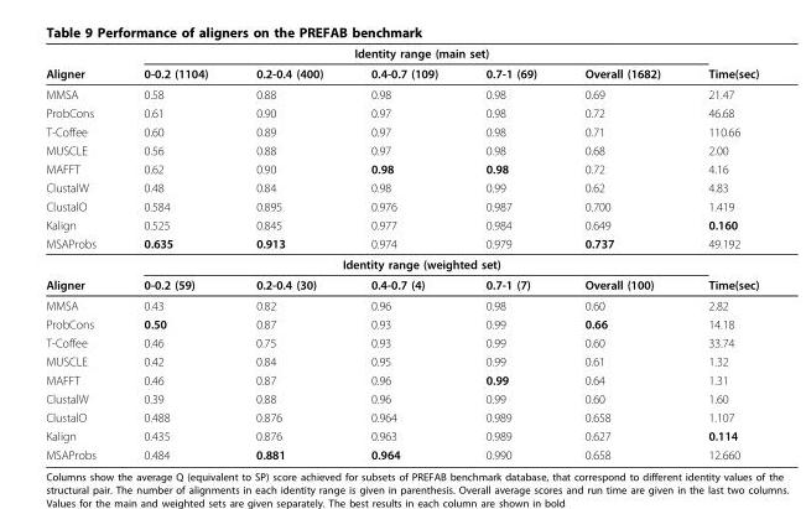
<table><thead><tr><td rowspan="2">Aligner</td><td colspan="5">Identity range (main set)</td><td rowspan="2">Time(sec)</td></tr><tr><td>0-0.2 (1104)</td><td>0.2-0.4 (400)</td><td>0.4-0.7 (109)</td><td>0.7-1 (69)</td><td>Overall (1682)</td></tr></thead><tbody><tr><td>MMSA</td><td>0.58</td><td>0.88</td><td>0.98</td><td>0.98</td><td>0.69</td><td>21.47</td></tr><tr><td>ProbCons</td><td>0.61</td><td>0.90</td><td>0.97</td><td>0.98</td><td>0.72</td><td>46.68</td></tr><tr><td>T-Coffee</td><td>0.60</td><td>0.89</td><td>0.97</td><td>0.98</td><td>0.71</td><td>110.66</td></tr><tr><td>MUSCLE</td><td>0.56</td><td>0.88</td><td>0.97</td><td>0.98</td><td>0.68</td><td>2.00</td></tr><tr><td>MAFFT</td><td>0.62</td><td>0.90</td><td>0.98</td><td>0.98</td><td>0.72</td><td>4.16</td></tr><tr><td>ClustalW</td><td>0.48</td><td>0.84</td><td>0.98</td><td>0.99</td><td>0.62</td><td>4.83</td></tr><tr><td>ClustalO</td><td>0.584</td><td>0.895</td><td>0.976</td><td>0.987</td><td>0.700</td><td>1.419</td></tr><tr><td>Kalign</td><td>0.525</td><td>0.845</td><td>0.977</td><td>0.984</td><td>0.649</td><td>0.160</td></tr><tr><td rowspan="2">MSAProbs</td><td>0.635</td><td>0.913</td><td>0.974</td><td>0.979</td><td>0.737</td><td>49.192</td></tr><tr><td colspan="5">Identity range (weighted set)</td><td></td></tr><tr><td>Aligner</td><td>0-0.2 (59)</td><td>0.2-0.4 (30)</td><td>0.4-0.7 (4)</td><td>0.7-1 (7)</td><td>Overall (100)</td><td>Time(sec)</td></tr><tr><td>MMSA</td><td>0.43</td><td>0.82</td><td>0.96</td><td>0.98</td><td>0.60</td><td>2.82</td></tr><tr><td>ProbCons</td><td>0.50</td><td>0.87</td><td>0.93</td><td>0.99</td><td>0.66</td><td>14.18</td></tr><tr><td>T-Coffee</td><td>0.46</td><td>0.75</td><td>0.93</td><td>0.99</td><td>0.60</td><td>33.74</td></tr><tr><td>MUSCLE</td><td>0.42</td><td>0.84</td><td>0.95</td><td>0.99</td><td>0.61</td><td>1.32</td></tr><tr><td>MAFFT</td><td>0.46</td><td>0.87</td><td>0.96</td><td>0.99</td><td>0.64</td><td>1.31</td></tr><tr><td>ClustalW</td><td>0.39</td><td>0.88</td><td>0.96</td><td>0.99</td><td>0.60</td><td>1.60</td></tr><tr><td>ClustalO</td><td>0.488</td><td>0.876</td><td>0.964</td><td>0.989</td><td>0.658</td><td>1.107</td></tr><tr><td>Kalign</td><td>0.435</td><td>0.876</td><td>0.963</td><td>0.989</td><td>0.627</td><td>0.114</td></tr><tr><td>MSAProbs</td><td>0.484</td><td>0.881</td><td>0.964</td><td>0.990</td><td>0.658</td><td>12.660</td></tr></tbody></table>